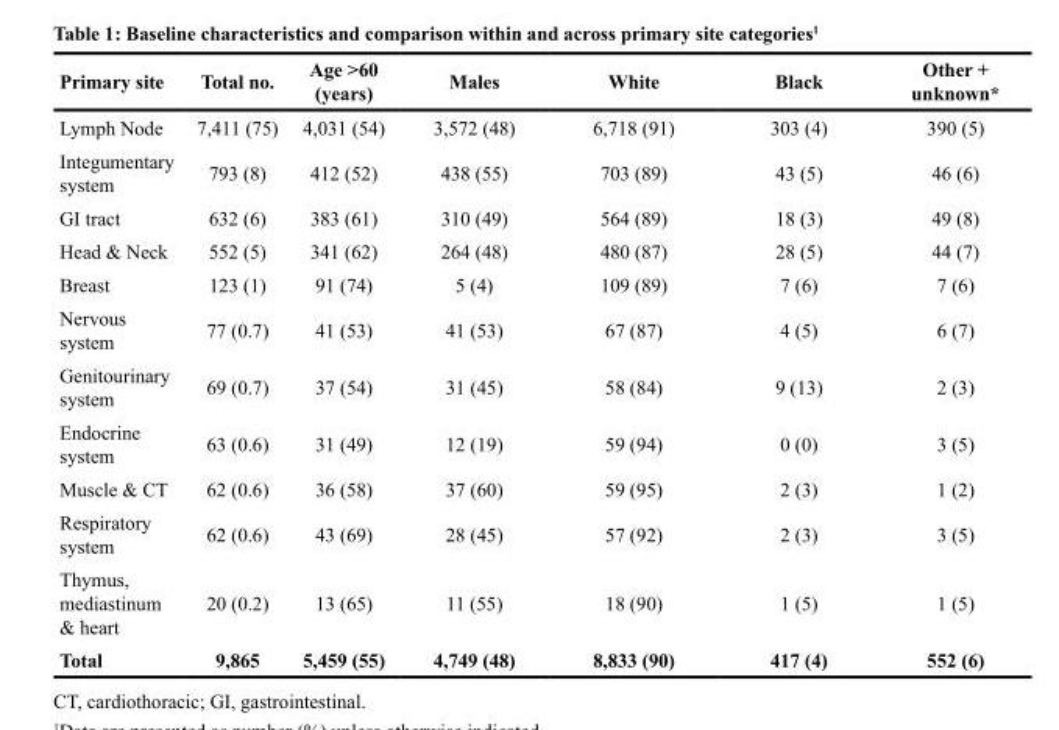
<table><thead><tr><td>Primary site</td><td>Total no.</td><td>Age &gt;60 (years)</td><td>Males</td><td>White</td><td>Black</td><td>Other + unknown*</td></tr></thead><tbody><tr><td>Lymph Node</td><td>7,411 (75)</td><td>4,031 (54)</td><td>3,572 (48)</td><td>6,718 (91)</td><td>303 (4)</td><td>390 (5)</td></tr><tr><td>Integumentary system</td><td>793 (8)</td><td>412 (52)</td><td>438 (55)</td><td>703 (89)</td><td>43 (5)</td><td>46 (6)</td></tr><tr><td>GI tract</td><td>632 (6)</td><td>383 (61)</td><td>310 (49)</td><td>564 (89)</td><td>18 (3)</td><td>49 (8)</td></tr><tr><td>Head &amp; Neck</td><td>552 (5)</td><td>341 (62)</td><td>264 (48)</td><td>480 (87)</td><td>28 (5)</td><td>44 (7)</td></tr><tr><td>Breast</td><td>123 (1)</td><td>91 (74)</td><td>5 (4)</td><td>109 (89)</td><td>7 (6)</td><td>7 (6)</td></tr><tr><td>Nervous system</td><td>77 (0.7)</td><td>41 (53)</td><td>41 (53)</td><td>67 (87)</td><td>4 (5)</td><td>6 (7)</td></tr><tr><td>Genitourinary system</td><td>69 (0.7)</td><td>37 (54)</td><td>31 (45)</td><td>58 (84)</td><td>9 (13)</td><td>2 (3)</td></tr><tr><td>Endocrine system</td><td>63 (0.6)</td><td>31 (49)</td><td>12 (19)</td><td>59 (94)</td><td>0 (0)</td><td>3 (5)</td></tr><tr><td>Muscle &amp; CT</td><td>62 (0.6)</td><td>36 (58)</td><td>37 (60)</td><td>59 (95)</td><td>2 (3)</td><td>1 (2)</td></tr><tr><td>Respiratory system</td><td>62 (0.6)</td><td>43 (69)</td><td>28 (45)</td><td>57 (92)</td><td>2 (3)</td><td>3 (5)</td></tr><tr><td>Thymus, mediastinum &amp; heart</td><td>20 (0.2)</td><td>13 (65)</td><td>11 (55)</td><td>18 (90)</td><td>1 (5)</td><td>1 (5)</td></tr><tr><td>Total</td><td>9,865</td><td>5,459 (55)</td><td>4,749 (48)</td><td>8,833 (90)</td><td>417 (4)</td><td>552 (6)</td></tr></tbody></table>